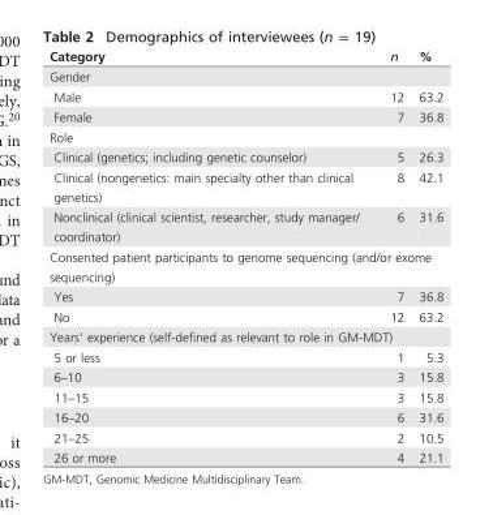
<table><thead><tr><td>Category</td><td>n</td><td>%</td></tr></thead><tbody><tr><td colspan="3">Gender</td></tr><tr><td>Male</td><td>12</td><td>63.2</td></tr><tr><td>Female</td><td>7</td><td>36.8</td></tr><tr><td colspan="3">Role</td></tr><tr><td>Clinical (genetics; including genetic counselor)</td><td>5</td><td>26.3</td></tr><tr><td>Clinical (nongenetics: main specialty other than clinical genetics)</td><td>8</td><td>42.1</td></tr><tr><td>Nonclinical (clinical scientist, researcher, study manager/ coordinator)</td><td>6</td><td>31.6</td></tr><tr><td colspan="3">Consented patient participants to genome sequencing (and/or exome sequencing)</td></tr><tr><td>Yes</td><td>7</td><td>36.8</td></tr><tr><td>No</td><td>12</td><td>63.2</td></tr><tr><td colspan="3">Years’ experience (self-defined as relevant to role in GM-MDT)</td></tr><tr><td>5 or less</td><td>1</td><td>5.3</td></tr><tr><td>6–10</td><td>3</td><td>15.8</td></tr><tr><td>11–15</td><td>3</td><td>15.8</td></tr><tr><td>16–20</td><td>6</td><td>31.6</td></tr><tr><td>21–25</td><td>2</td><td>10.5</td></tr><tr><td>26 or more</td><td>4</td><td>21.1</td></tr></tbody></table>